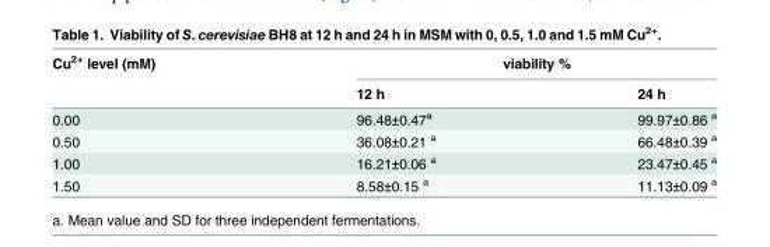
<table><thead><tr><td rowspan="2">Cu<sup>2+</sup> level (mM)</td><td colspan="2">viability %</td></tr><tr><td>12 h</td><td>24 h</td></tr></thead><tbody><tr><td>0.00</td><td>96.48±0.47<sup>a</sup></td><td>99.97±0.86 <sup>a</sup></td></tr><tr><td>0.50</td><td>36.08±0.21 <sup>a</sup></td><td>66.48±0.39 <sup>a</sup></td></tr><tr><td>1.00</td><td>16.21±0.06 <sup>a</sup></td><td>23.47±0.45 <sup>a</sup></td></tr><tr><td>1.50</td><td>8.58±0.15 <sup>a</sup></td><td>11.13±0.09 <sup>a</sup></td></tr></tbody></table>